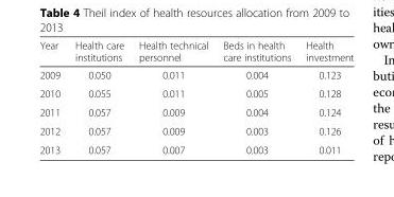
<table><thead><tr><td>Year</td><td>Health care institutions</td><td>Health technical personnel</td><td>Beds in health care institutions</td><td>Health investment</td></tr></thead><tbody><tr><td>2009</td><td>0.050</td><td>0.011</td><td>0.004</td><td>0.123</td></tr><tr><td>2010</td><td>0.055</td><td>0.011</td><td>0.005</td><td>0.128</td></tr><tr><td>2011</td><td>0.057</td><td>0.009</td><td>0.004</td><td>0.124</td></tr><tr><td>2012</td><td>0.057</td><td>0.009</td><td>0.003</td><td>0.126</td></tr><tr><td>2013</td><td>0.057</td><td>0.007</td><td>0.003</td><td>0.011</td></tr></tbody></table>